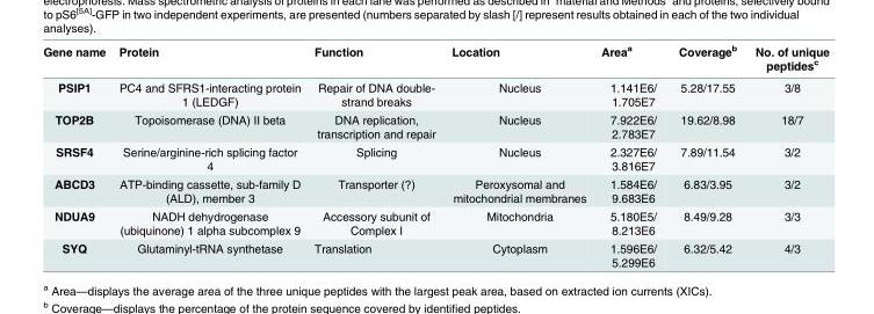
<table><thead><tr><td>Gene name</td><td>Protein</td><td>Function</td><td>Location</td><td>Area<sup>a</sup></td><td>Coverage<sup>b</sup></td><td>No. of unique peptides<sup>c</sup></td></tr></thead><tbody><tr><td>PSIP1</td><td>PC4 and SFRS1-interacting protein 1 (LEDGF)</td><td>Repair of DNA double- strand breaks</td><td>Nucleus</td><td>1.141E6/ 1.705E7</td><td>5.28/17.55</td><td>3/8</td></tr><tr><td>TOP2B</td><td>Topoisomerase (DNA) II beta</td><td>DNA replication, transcription and repair</td><td>Nucleus</td><td>7.922E6/ 2.783E7</td><td>19.62/8.98</td><td>18/7</td></tr><tr><td>SRSF4</td><td>Serine/arginine-rich splicing factor 4</td><td>Splicing</td><td>Nucleus</td><td>2.327E6/ 3.816E7</td><td>7.89/11.54</td><td>3/2</td></tr><tr><td>ABCD3</td><td>ATP-binding cassette, sub-family D (ALD), member 3</td><td>Transporter (?)</td><td>Peroxysomal and mitochondrial membranes</td><td>1.584E6/ 9.683E6</td><td>6.83/3.95</td><td>3/2</td></tr><tr><td>NDUA9</td><td>NADH dehydrogenase (ubiquinone) 1 alpha subcomplex 9</td><td>Accessory subunit of Complex I</td><td>Mitochondria</td><td>5.180E5/ 8.213E6</td><td>8.49/9.28</td><td>3/3</td></tr><tr><td>SYQ</td><td>Glutaminyl-tRNA synthetase</td><td>Translation</td><td>Cytoplasm</td><td>1.596E6/ 5.299E6</td><td>6.32/5.42</td><td>4/3</td></tr></tbody></table>